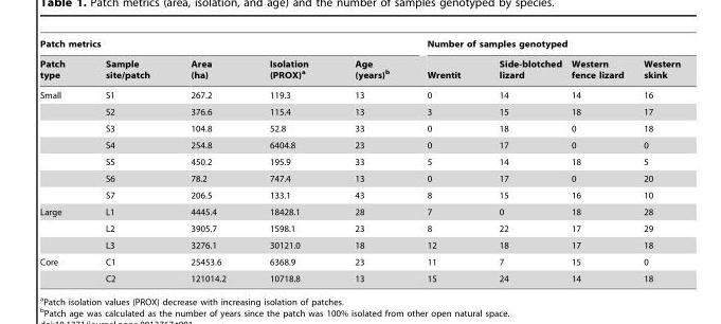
<table><thead><tr><td colspan="5">Patch metrics</td><td colspan="4">Number of samples genotyped</td></tr><tr><td>Patch type</td><td>Sample site/patch</td><td>Area (ha)</td><td>Isolation (PROX)<sup>a</sup></td><td>Age (years)<sup>b</sup></td><td>Wrentit</td><td>Side-blotched lizard</td><td>Western fence lizard</td><td>Western skink</td></tr></thead><tbody><tr><td rowspan="7">Small</td><td>S1</td><td>267.2</td><td>119.3</td><td>13</td><td>0</td><td>14</td><td>14</td><td>16</td></tr><tr><td>S2</td><td>376.6</td><td>115.4</td><td>13</td><td>3</td><td>15</td><td>18</td><td>17</td></tr><tr><td>S3</td><td>104.8</td><td>52.8</td><td>33</td><td>0</td><td>18</td><td>0</td><td>18</td></tr><tr><td>S4</td><td>254.8</td><td>6404.8</td><td>23</td><td>0</td><td>17</td><td>0</td><td>0</td></tr><tr><td>S5</td><td>450.2</td><td>195.9</td><td>33</td><td>5</td><td>14</td><td>18</td><td>5</td></tr><tr><td>S6</td><td>78.2</td><td>747.4</td><td>13</td><td>0</td><td>17</td><td>0</td><td>20</td></tr><tr><td>S7</td><td>206.5</td><td>133.1</td><td>43</td><td>8</td><td>15</td><td>16</td><td>10</td></tr><tr><td rowspan="3">Large</td><td>L1</td><td>4445.4</td><td>18428.1</td><td>28</td><td>7</td><td>0</td><td>18</td><td>28</td></tr><tr><td>L2</td><td>3905.7</td><td>1598.1</td><td>23</td><td>8</td><td>22</td><td>17</td><td>29</td></tr><tr><td>L3</td><td>3276.1</td><td>30121.0</td><td>18</td><td>12</td><td>18</td><td>17</td><td>18</td></tr><tr><td rowspan="2">Core</td><td>C1</td><td>25453.6</td><td>6368.9</td><td>23</td><td>11</td><td>7</td><td>15</td><td>0</td></tr><tr><td>C2</td><td>121014.2</td><td>10718.8</td><td>13</td><td>15</td><td>24</td><td>14</td><td>18</td></tr></tbody></table>